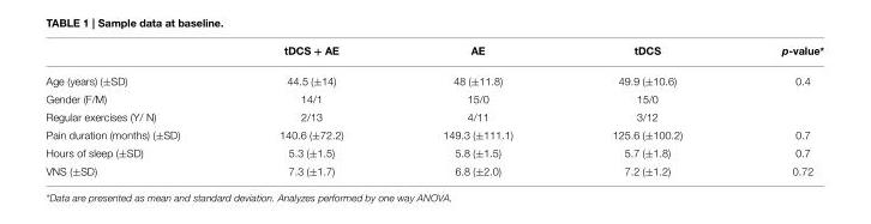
<table><thead><tr><td></td><td>tDCS + AE</td><td>AE</td><td>tDCS</td><td>p-value*</td></tr></thead><tbody><tr><td>Age (years) (±SD)</td><td>44.5 (±14)</td><td>48 (±11.8)</td><td>49.9 (±10.6)</td><td>0.4</td></tr><tr><td>Gender (F/M)</td><td>14/1</td><td>15/0</td><td>15/0</td><td></td></tr><tr><td>Regular exercises (Y/ N)</td><td>2/13</td><td>4/11</td><td>3/12</td><td></td></tr><tr><td>Pain duration (months) (±SD)</td><td>140.6 (±72.2)</td><td>149.3 (±111.1)</td><td>125.6 (±100.2)</td><td>0.7</td></tr><tr><td>Hours of sleep (±SD)</td><td>5.3 (±1.5)</td><td>5.8 (±1.5)</td><td>5.7 (±1.8)</td><td>0.7</td></tr><tr><td>VNS (±SD)</td><td>7.3 (±1.7)</td><td>6.8 (±2.0)</td><td>7.2 (±1.2)</td><td>0.72</td></tr></tbody></table>